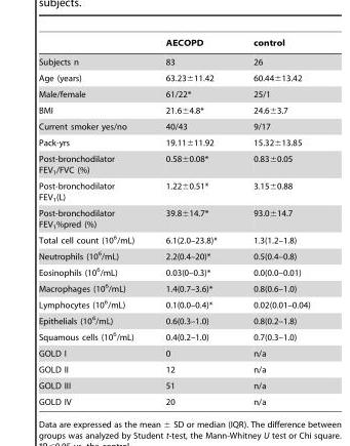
<table><thead><tr><td></td><td>AECOPD</td><td>control</td></tr></thead><tbody><tr><td>Subjects n</td><td>83</td><td>26</td></tr><tr><td>Age (years)</td><td>63.23±11.42</td><td>60.44±13.42</td></tr><tr><td>Male/female</td><td>61/22*</td><td>25/1</td></tr><tr><td>BMI</td><td>21.6±4.8*</td><td>24.6±3.7</td></tr><tr><td>Current smoker yes/no</td><td>40/43</td><td>9/17</td></tr><tr><td>Pack-yrs</td><td>19.11±11.92</td><td>15.32±13.85</td></tr><tr><td>Post-bronchodilator FEV<sub>1</sub>/FVC (%)</td><td>0.58±0.08*</td><td>0.83±0.05</td></tr><tr><td>Post-bronchodilator FEV<sub>1</sub>(L)</td><td>1.22±0.51*</td><td>3.15±0.88</td></tr><tr><td>Post-bronchodilator FEV<sub>1</sub>%pred (%)</td><td>39.8±14.7*</td><td>93.0±14.7</td></tr><tr><td>Total cell count (10<sup>6</sup>/mL)</td><td>6.1(2.0–23.8)*</td><td>1.3(1.2–1.8)</td></tr><tr><td>Neutrophils (10<sup>6</sup>/mL)</td><td>2.2(0.4–20)*</td><td>0.5(0.4–0.8)</td></tr><tr><td>Eosinophils (10<sup>6</sup>/mL)</td><td>0.03(0–0.3)*</td><td>0.0(0.0–0.01)</td></tr><tr><td>Macrophages (10<sup>6</sup>/mL)</td><td>1.4(0.7–3.6)*</td><td>0.8(0.6–1.0)</td></tr><tr><td>Lymphocytes (10<sup>6</sup>/mL)</td><td>0.1(0.0–0.4)*</td><td>0.02(0.01–0.04)</td></tr><tr><td>Epithelials (10<sup>6</sup>/mL)</td><td>0.6(0.3–1.0)</td><td>0.8(0.2–1.8)</td></tr><tr><td>Squamous cells (10<sup>6</sup>/mL)</td><td>0.4(0.2–1.0)</td><td>0.7(0.3–1.0)</td></tr><tr><td>GOLD I</td><td>0</td><td>n/a</td></tr><tr><td>GOLD II</td><td>12</td><td>n/a</td></tr><tr><td>GOLD III</td><td>51</td><td>n/a</td></tr><tr><td>GOLD IV</td><td>20</td><td>n/a</td></tr></tbody></table>